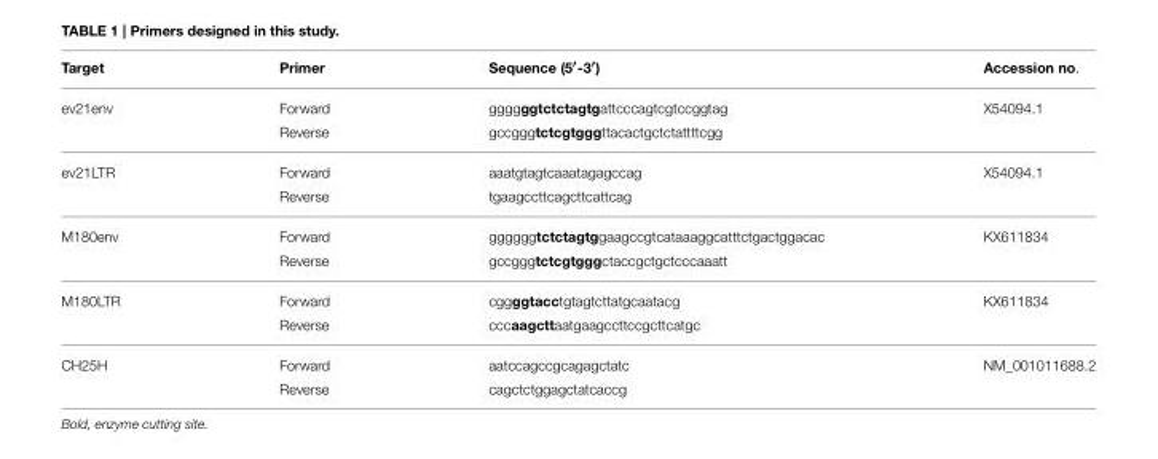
<table><thead><tr><td>Target</td><td>Primer</td><td>Sequence (5′-3′)</td><td>Accession no.</td></tr></thead><tbody><tr><td rowspan="2">ev21env</td><td>Forward</td><td>ggggggtctctagtgattcccagtcgtccggtag</td><td>X54094.1</td></tr><tr><td>Reverse</td><td>gccgggtctcgtgggttacactgctctattttcgg</td><td></td></tr><tr><td rowspan="2">ev21LTR</td><td>Forward</td><td>aaatgtagtcaaatagagccag</td><td>X54094.1</td></tr><tr><td>Reverse</td><td>tgaagccttcagcttcattcag</td><td></td></tr><tr><td rowspan="2">M180env</td><td>Forward</td><td>ggggggtctctagtggaagccgtcataaaggcatttctgactggacac</td><td>KX611834</td></tr><tr><td>Reverse</td><td>gccgggtctcgtgggctaccgctgctcccaaatt</td><td></td></tr><tr><td rowspan="2">M180LTR</td><td>Forward</td><td>cggggtacctgtagtcttatgcaatacg</td><td>KX611834</td></tr><tr><td>Reverse</td><td>cccaagcttaatgaagccttccgcttcatgc</td><td></td></tr><tr><td rowspan="2">CH25H</td><td>Forward</td><td>aatccagccgcagagctatc</td><td>NM_001011688.2</td></tr><tr><td>Reverse</td><td>cagctctggagctatcaccg</td><td></td></tr></tbody></table>